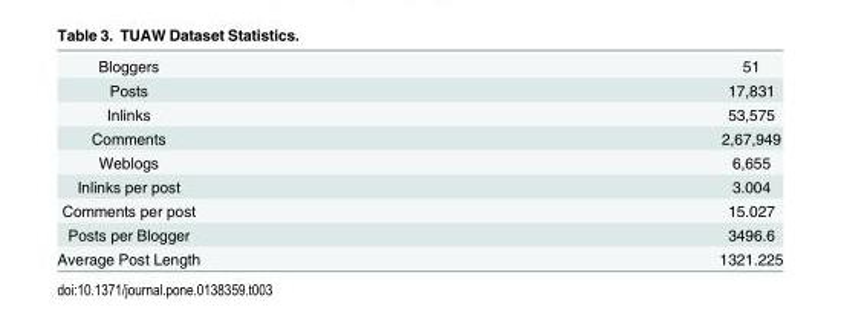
<table><tbody><tr><td>Bloggers</td><td>51</td></tr><tr><td>Posts</td><td>17,831</td></tr><tr><td>Inlinks</td><td>53,575</td></tr><tr><td>Comments</td><td>2,67,949</td></tr><tr><td>Weblogs</td><td>6,655</td></tr><tr><td>Inlinks per post</td><td>3.004</td></tr><tr><td>Comments per post</td><td>15.027</td></tr><tr><td>Posts per Blogger</td><td>3496.6</td></tr><tr><td>Average Post Length</td><td>1321.225</td></tr></tbody></table>